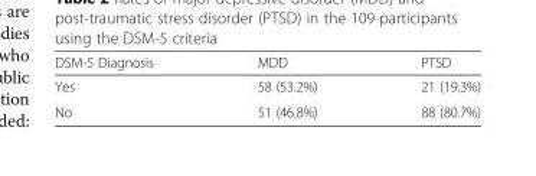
<table><thead><tr><td>DSM-5 Diagnosis</td><td>MDD</td><td>PTSD</td></tr></thead><tbody><tr><td>Yes</td><td>58 (53.2%)</td><td>21 (19.3%)</td></tr><tr><td>No</td><td>51 (46.8%)</td><td>88 (80.7%)</td></tr></tbody></table>